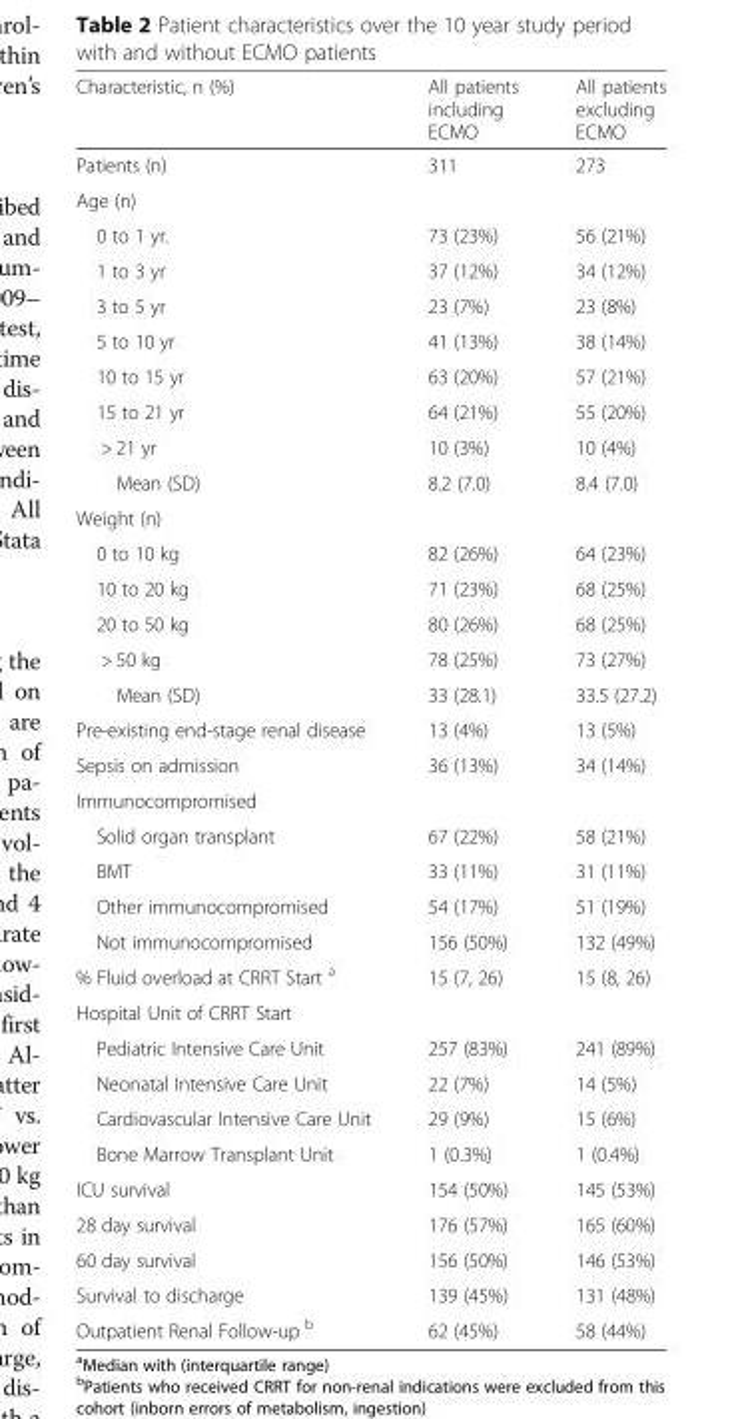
<table><thead><tr><td>Characteristic, n (%)</td><td>All patients including ECMO</td><td>All patients excluding ECMO</td></tr></thead><tbody><tr><td>Patients (n)</td><td>311</td><td>273</td></tr><tr><td colspan="3">Age (n)</td></tr><tr><td>0 to 1 yr.</td><td>73 (23%)</td><td>56 (21%)</td></tr><tr><td>1 to 3 yr</td><td>37 (12%)</td><td>34 (12%)</td></tr><tr><td>3 to 5 yr</td><td>23 (7%)</td><td>23 (8%)</td></tr><tr><td>5 to 10 yr</td><td>41 (13%)</td><td>38 (14%)</td></tr><tr><td>10 to 15 yr</td><td>63 (20%)</td><td>57 (21%)</td></tr><tr><td>15 to 21 yr</td><td>64 (21%)</td><td>55 (20%)</td></tr><tr><td>&gt; 21 yr</td><td>10 (3%)</td><td>10 (4%)</td></tr><tr><td>Mean (SD)</td><td>8.2 (7.0)</td><td>8.4 (7.0)</td></tr><tr><td colspan="3">Weight (n)</td></tr><tr><td>0 to 10 kg</td><td>82 (26%)</td><td>64 (23%)</td></tr><tr><td>10 to 20 kg</td><td>71 (23%)</td><td>68 (25%)</td></tr><tr><td>20 to 50 kg</td><td>80 (26%)</td><td>68 (25%)</td></tr><tr><td>&gt; 50 kg</td><td>78 (25%)</td><td>73 (27%)</td></tr><tr><td>Mean (SD)</td><td>33 (28.1)</td><td>33.5 (27.2)</td></tr><tr><td>Pre-existing end-stage renal disease</td><td>13 (4%)</td><td>13 (5%)</td></tr><tr><td>Sepsis on admission</td><td>36 (13%)</td><td>34 (14%)</td></tr><tr><td colspan="3">Immunocompromised</td></tr><tr><td>Solid organ transplant</td><td>67 (22%)</td><td>58 (21%)</td></tr><tr><td>BMT</td><td>33 (11%)</td><td>31 (11%)</td></tr><tr><td>Other immunocompromised</td><td>54 (17%)</td><td>51 (19%)</td></tr><tr><td>Not immunocompromised</td><td>156 (50%)</td><td>132 (49%)</td></tr><tr><td>% Fluid overload at CRRT Start <sup>a</sup></td><td>15 (7, 26)</td><td>15 (8, 26)</td></tr><tr><td colspan="3">Hospital Unit of CRRT Start</td></tr><tr><td>Pediatric Intensive Care Unit</td><td>257 (83%)</td><td>241 (89%)</td></tr><tr><td>Neonatal Intensive Care Unit</td><td>22 (7%)</td><td>14 (5%)</td></tr><tr><td>Cardiovascular Intensive Care Unit</td><td>29 (9%)</td><td>15 (6%)</td></tr><tr><td>Bone Marrow Transplant Unit</td><td>1 (0.3%)</td><td>1 (0.4%)</td></tr><tr><td>ICU survival</td><td>154 (50%)</td><td>145 (53%)</td></tr><tr><td>28 day survival</td><td>176 (57%)</td><td>165 (60%)</td></tr><tr><td>60 day survival</td><td>156 (50%)</td><td>146 (53%)</td></tr><tr><td>Survival to discharge</td><td>139 (45%)</td><td>131 (48%)</td></tr><tr><td>Outpatient Renal Follow-up <sup>b</sup></td><td>62 (45%)</td><td>58 (44%)</td></tr></tbody></table>